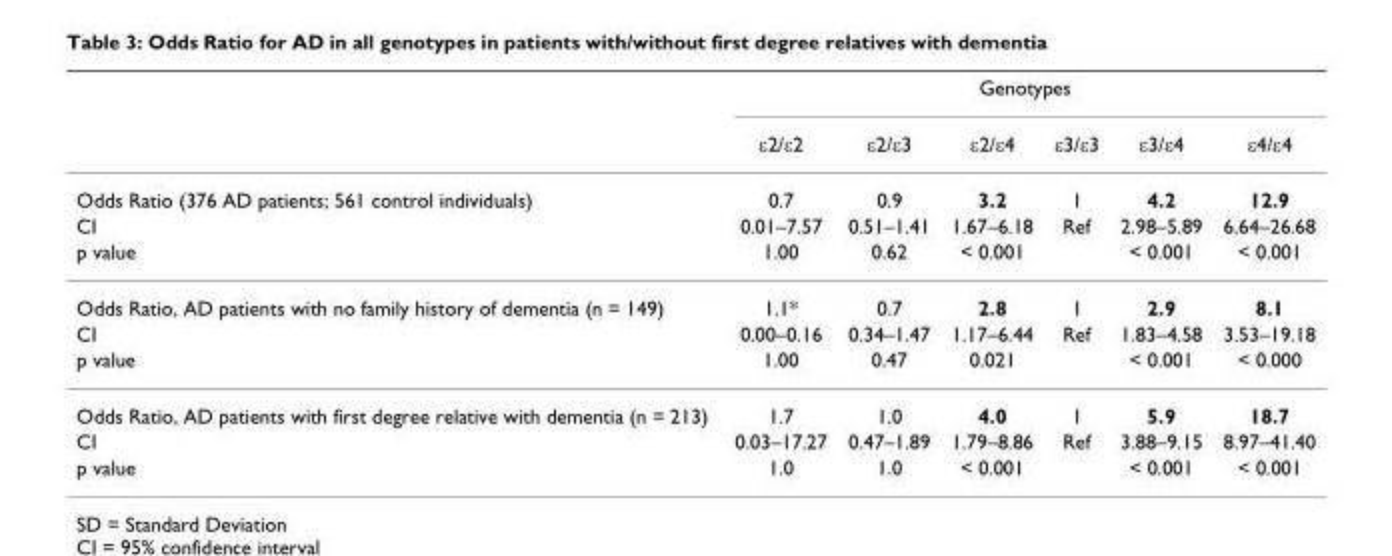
<table><thead><tr><td rowspan="2"></td><td colspan="6">Genotypes</td></tr><tr><td>ε2/ε2</td><td>ε2/ε3</td><td>ε2/ε4</td><td>ε3/ε3</td><td>ε3/ε4</td><td>ε4/ε4</td></tr></thead><tbody><tr><td>Odds Ratio (376 AD patients; 561 control individuals)</td><td>0.7</td><td>0.9</td><td>3.2</td><td>1</td><td>4.2</td><td>12.9</td></tr><tr><td>CI</td><td>0.01–7.57</td><td>0.51–1.41</td><td>1.67–6.18</td><td>Ref</td><td>2.98–5.89</td><td>6.64–26.68</td></tr><tr><td>p value</td><td>1.00</td><td>0.62</td><td>&lt; 0.001</td><td></td><td>&lt; 0.001</td><td>&lt; 0.001</td></tr><tr><td>Odds Ratio, AD patients with no family history of dementia (n = 149)</td><td>1.1*</td><td>0.7</td><td>2.8</td><td>1</td><td>2.9</td><td>8.1</td></tr><tr><td>CI</td><td>0.00–0.16</td><td>0.34–1.47</td><td>1.17–6.44</td><td>Ref</td><td>1.83–4.58</td><td>3.53–19.18</td></tr><tr><td>p value</td><td>1.00</td><td>0.47</td><td>0.021</td><td></td><td>&lt; 0.001</td><td>&lt; 0.000</td></tr><tr><td>Odds Ratio, AD patients with first degree relative with dementia (n = 213)</td><td>1.7</td><td>1.0</td><td>4.0</td><td>1</td><td>5.9</td><td>18.7</td></tr><tr><td>CI</td><td>0.03–17.27</td><td>0.47–1.89</td><td>1.79–8.86</td><td>Ref</td><td>3.88–9.15</td><td>8.97–41.40</td></tr><tr><td>p value</td><td>1.0</td><td>1.0</td><td>&lt; 0.001</td><td></td><td>&lt; 0.001</td><td>&lt; 0.001</td></tr></tbody></table>